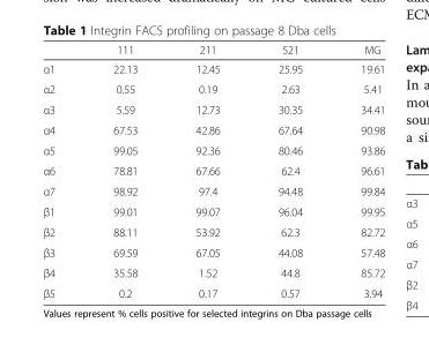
<table><thead><tr><td></td><td>111</td><td>211</td><td>521</td><td>MG</td></tr></thead><tbody><tr><td>α1</td><td>22.13</td><td>12.45</td><td>25.95</td><td>19.61</td></tr><tr><td>α2</td><td>0.55</td><td>0.19</td><td>2.63</td><td>5.41</td></tr><tr><td>α3</td><td>5.59</td><td>12.73</td><td>30.35</td><td>34.41</td></tr><tr><td>α4</td><td>67.53</td><td>42.86</td><td>67.64</td><td>90.98</td></tr><tr><td>α5</td><td>99.05</td><td>92.36</td><td>80.46</td><td>93.86</td></tr><tr><td>α6</td><td>78.81</td><td>67.66</td><td>62.4</td><td>96.61</td></tr><tr><td>α7</td><td>98.92</td><td>97.4</td><td>94.48</td><td>99.84</td></tr><tr><td>β1</td><td>99.01</td><td>99.07</td><td>96.04</td><td>99.95</td></tr><tr><td>β2</td><td>88.11</td><td>53.92</td><td>62.3</td><td>82.72</td></tr><tr><td>β3</td><td>69.59</td><td>67.05</td><td>44.08</td><td>57.48</td></tr><tr><td>β4</td><td>35.58</td><td>1.52</td><td>44.8</td><td>85.72</td></tr><tr><td>β5</td><td>0.2</td><td>0.17</td><td>0.57</td><td>3.94</td></tr></tbody></table>